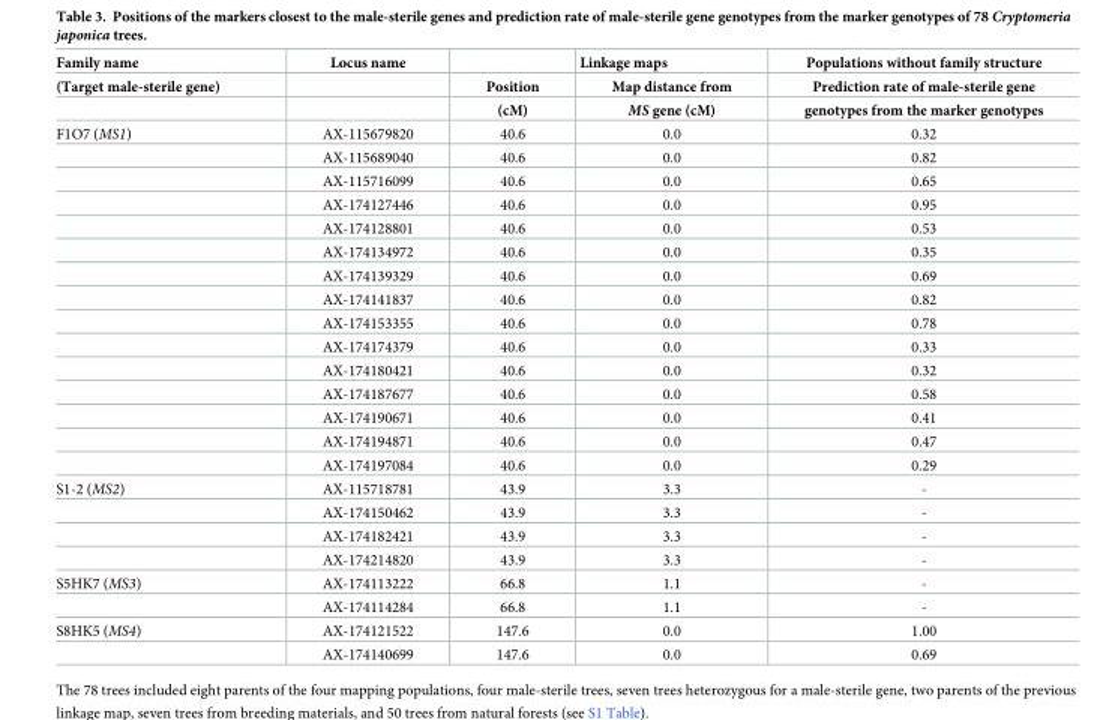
<table><thead><tr><td rowspan="3">Family name (Target male-sterile gene)</td><td rowspan="3">Locus name</td><td rowspan="3">Position (cM)</td><td rowspan="3">Linkage maps Map distance from MS gene (cM)</td><td rowspan="3">Populations without family structure Prediction rate of male-sterile gene genotypes from the marker genotypes</td></tr><tr></tr><tr></tr></thead><tbody><tr><td rowspan="15">F1O7 (MS1)</td><td>AX-115679820</td><td>40.6</td><td>0.0</td><td>0.32</td></tr><tr><td>AX-115689040</td><td>40.6</td><td>0.0</td><td>0.82</td></tr><tr><td>AX-115716099</td><td>40.6</td><td>0.0</td><td>0.65</td></tr><tr><td>AX-174127446</td><td>40.6</td><td>0.0</td><td>0.95</td></tr><tr><td>AX-174128801</td><td>40.6</td><td>0.0</td><td>0.53</td></tr><tr><td>AX-174134972</td><td>40.6</td><td>0.0</td><td>0.35</td></tr><tr><td>AX-174139329</td><td>40.6</td><td>0.0</td><td>0.69</td></tr><tr><td>AX-174141837</td><td>40.6</td><td>0.0</td><td>0.82</td></tr><tr><td>AX-174153355</td><td>40.6</td><td>0.0</td><td>0.78</td></tr><tr><td>AX-174174379</td><td>40.6</td><td>0.0</td><td>0.33</td></tr><tr><td>AX-174180421</td><td>40.6</td><td>0.0</td><td>0.32</td></tr><tr><td>AX-174187677</td><td>40.6</td><td>0.0</td><td>0.58</td></tr><tr><td>AX-174190671</td><td>40.6</td><td>0.0</td><td>0.41</td></tr><tr><td>AX-174194871</td><td>40.6</td><td>0.0</td><td>0.47</td></tr><tr><td>AX-174197084</td><td>40.6</td><td>0.0</td><td>0.29</td></tr><tr><td rowspan="4">S1-2 (MS2)</td><td>AX-115718781</td><td>43.9</td><td>3.3</td><td>-</td></tr><tr><td>AX-174150462</td><td>43.9</td><td>3.3</td><td>-</td></tr><tr><td>AX-174182421</td><td>43.9</td><td>3.3</td><td>-</td></tr><tr><td>AX-174214820</td><td>43.9</td><td>3.3</td><td>-</td></tr><tr><td rowspan="2">S5HK7 (MS3)</td><td>AX-174113222</td><td>66.8</td><td>1.1</td><td>-</td></tr><tr><td>AX-174114284</td><td>66.8</td><td>1.1</td><td>-</td></tr><tr><td rowspan="2">S8HK5 (MS4)</td><td>AX-174121522</td><td>147.6</td><td>0.0</td><td>1.00</td></tr><tr><td>AX-174140699</td><td>147.6</td><td>0.0</td><td>0.69</td></tr></tbody></table>